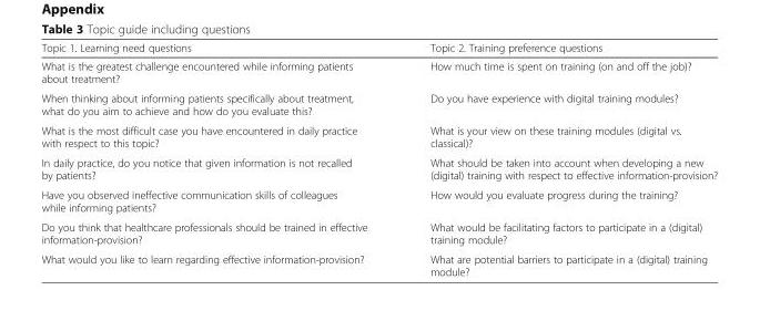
<table><thead><tr><td>Topic 1. Learning need questions</td><td>Topic 2. Training preference questions</td></tr></thead><tbody><tr><td>What is the greatest challenge encountered while informing patients about treatment?</td><td>How much time is spent on training (on and off the job)?</td></tr><tr><td>When thinking about informing patients specifically about treatment, what do you aim to achieve and how do you evaluate this?</td><td>Do you have experience with digital training modules?</td></tr><tr><td>What is the most difficult case you have encountered in daily practice with respect to this topic?</td><td>What is your view on these training modules (digital vs. classical)?</td></tr><tr><td>In daily practice, do you notice that given information is not recalled by patients?</td><td>What should be taken into account when developing a new (digital) training with respect to effective information-provision?</td></tr><tr><td>Have you observed ineffective communication skills of colleagues while informing patients?</td><td>How would you evaluate progress during the training?</td></tr><tr><td>Do you think that healthcare professionals should be trained in effective information-provision?</td><td>What would be facilitating factors to participate in a (digital) training module?</td></tr><tr><td>What would you like to learn regarding effective information-provision?</td><td>What are potential barriers to participate in a (digital) training module?</td></tr></tbody></table>